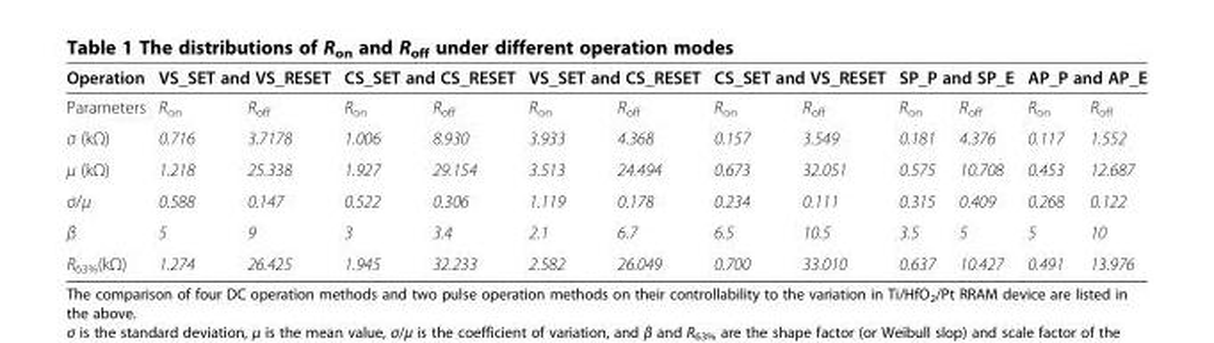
<table><thead><tr><td rowspan="2">Operation Parameters</td><td colspan="2">VS_SET and VS_RESET</td><td colspan="2">CS_SET and CS_RESET</td><td colspan="2">VS_SET and CS_RESET</td><td colspan="2">CS_SET and VS_RESET</td><td colspan="2">SP_P and SP_E</td><td colspan="2">AP_P and AP_E</td></tr><tr><td>R<sub>on</sub></td><td>R<sub>off</sub></td><td>R<sub>on</sub></td><td>R<sub>off</sub></td><td>R<sub>on</sub></td><td>R<sub>off</sub></td><td>R<sub>on</sub></td><td>R<sub>off</sub></td><td>R<sub>on</sub></td><td>R<sub>off</sub></td><td>R<sub>on</sub></td><td>R<sub>off</sub></td></tr></thead><tbody><tr><td>σ (kΩ)</td><td>0.716</td><td>3.7178</td><td>1.006</td><td>8.930</td><td>3.933</td><td>4.368</td><td>0.157</td><td>3.549</td><td>0.181</td><td>4.376</td><td>0.117</td><td>1.552</td></tr><tr><td>μ (kΩ)</td><td>1.218</td><td>25.338</td><td>1.927</td><td>29.154</td><td>3.513</td><td>24.494</td><td>0.673</td><td>32.051</td><td>0.575</td><td>10.708</td><td>0.453</td><td>12.687</td></tr><tr><td>σ/μ</td><td>0.588</td><td>0.147</td><td>0.522</td><td>0.306</td><td>1.119</td><td>0.178</td><td>0.234</td><td>0.111</td><td>0.315</td><td>0.409</td><td>0.268</td><td>0.122</td></tr><tr><td>β</td><td>5</td><td>9</td><td>3</td><td>3.4</td><td>2.1</td><td>6.7</td><td>6.5</td><td>10.5</td><td>3.5</td><td>5</td><td>5</td><td>10</td></tr><tr><td>R<sub>63%</sub>(kΩ)</td><td>1.274</td><td>26.425</td><td>1.945</td><td>32.233</td><td>2.582</td><td>26.049</td><td>0.700</td><td>33.010</td><td>0.637</td><td>10.427</td><td>0.491</td><td>13.976</td></tr></tbody></table>